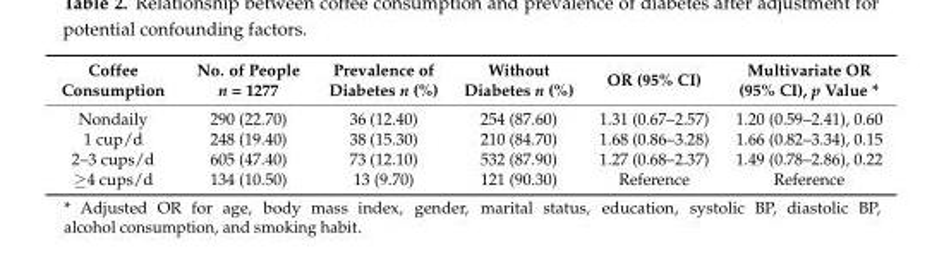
<table><thead><tr><td>Coffee Consumption</td><td>No. of People n = 1277</td><td>Prevalence of Diabetes n (%)</td><td>Without Diabetes n (%)</td><td>OR (95% CI)</td><td>Multivariate OR (95% CI), p Value *</td></tr></thead><tbody><tr><td>Nondaily</td><td>290 (22.70)</td><td>36 (12.40)</td><td>254 (87.60)</td><td>1.31 (0.67–2.57)</td><td>1.20 (0.59–2.41), 0.60</td></tr><tr><td>1 cup/d</td><td>248 (19.40)</td><td>38 (15.30)</td><td>210 (84.70)</td><td>1.68 (0.86–3.28)</td><td>1.66 (0.82–3.34), 0.15</td></tr><tr><td>2–3 cups/d</td><td>605 (47.40)</td><td>73 (12.10)</td><td>532 (87.90)</td><td>1.27 (0.68–2.37)</td><td>1.49 (0.78–2.86), 0.22</td></tr><tr><td>≥4 cups/d</td><td>134 (10.50)</td><td>13 (9.70)</td><td>121 (90.30)</td><td>Reference</td><td>Reference</td></tr></tbody></table>